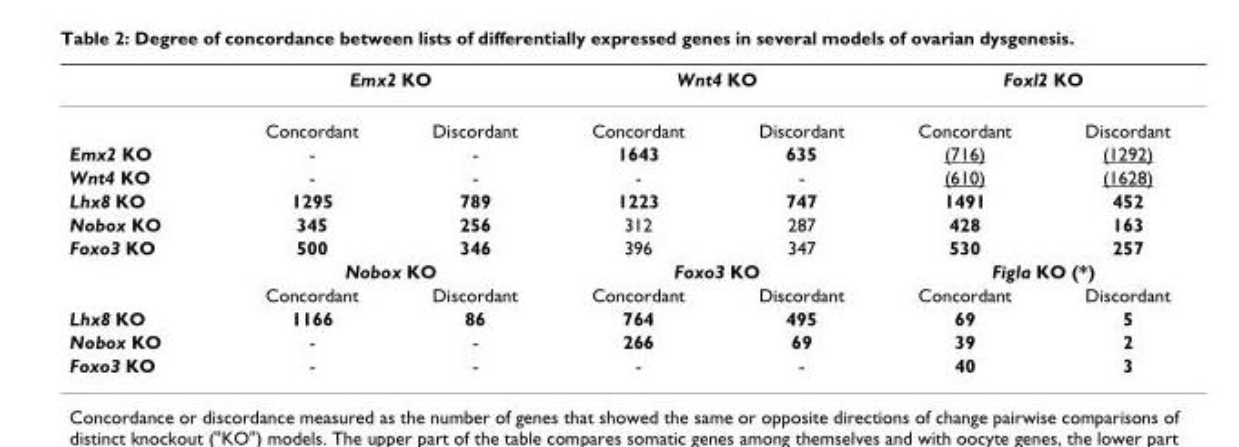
<table><thead><tr><td rowspan="2"></td><td colspan="2">Emx2 KO</td><td colspan="2">Wnt4 KO</td><td colspan="2">Foxl2 KO</td></tr><tr><td>Concordant</td><td>Discordant</td><td>Concordant</td><td>Discordant</td><td>Concordant</td><td>Discordant</td></tr></thead><tbody><tr><td>Emx2 KO</td><td>-</td><td>-</td><td>1643</td><td>635</td><td>(716)</td><td>(1292)</td></tr><tr><td>Wnt4 KO</td><td>-</td><td>-</td><td>-</td><td>-</td><td>(610)</td><td>(1628)</td></tr><tr><td>Lhx8 KO</td><td>1295</td><td>789</td><td>1223</td><td>747</td><td>1491</td><td>452</td></tr><tr><td>Nobox KO</td><td>345</td><td>256</td><td>312</td><td>287</td><td>428</td><td>163</td></tr><tr><td rowspan="3">Foxo3 KO</td><td>500</td><td>346</td><td>396</td><td>347</td><td>530</td><td>257</td></tr><tr><td colspan="2">Nobox KO</td><td colspan="2">Foxo3 KO</td><td colspan="2">Figla KO (*)</td></tr><tr><td>Concordant</td><td>Discordant</td><td>Concordant</td><td>Discordant</td><td>Concordant</td><td>Discordant</td></tr><tr><td>Lhx8 KO</td><td>1166</td><td>86</td><td>764</td><td>495</td><td>69</td><td>5</td></tr><tr><td>Nobox KO</td><td>-</td><td>-</td><td>266</td><td>69</td><td>39</td><td>2</td></tr><tr><td>Foxo3 KO</td><td>-</td><td>-</td><td>-</td><td>-</td><td>40</td><td>3</td></tr></tbody></table>